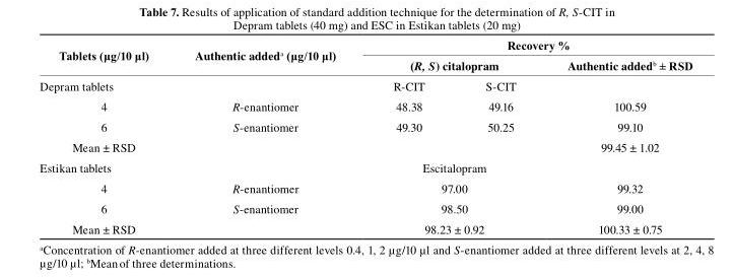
<table><thead><tr><td rowspan="3">Tablets (μg/10 μl) Depram tablets</td><td rowspan="3">Authentic added<sup>a</sup> (μg/10 μl)</td><td colspan="3">Recovery %</td></tr><tr><td colspan="2">(R, S) citalopram</td><td rowspan="2">Authentic added<sup>b</sup> ± RSD</td></tr><tr><td>R-CIT</td><td>S-CIT</td></tr></thead><tbody><tr><td>4</td><td>R-enantiomer</td><td>48.38</td><td>49.16</td><td>100.59</td></tr><tr><td>6</td><td>S-enantiomer</td><td>49.30</td><td>50.25</td><td>99.10</td></tr><tr><td>Mean ± RSD</td><td></td><td></td><td></td><td>99.45 ± 1.02</td></tr><tr><td>Estikan tablets</td><td></td><td colspan="2">Escitalopram</td><td></td></tr><tr><td>4</td><td>R-enantiomer</td><td colspan="2">97.00</td><td>99.32</td></tr><tr><td>6</td><td>S-enantiomer</td><td colspan="2">98.50</td><td>99.00</td></tr><tr><td>Mean ± RSD</td><td></td><td colspan="2">98.23 ± 0.92</td><td>100.33 ± 0.75</td></tr></tbody></table>